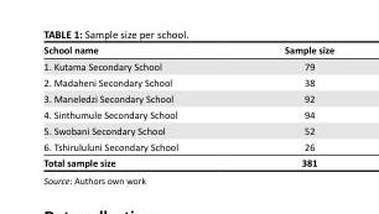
<table><thead><tr><td>School name</td><td>Sample size</td></tr></thead><tbody><tr><td>1. Kutama Secondary School</td><td>79</td></tr><tr><td>2. Madaheni Secondary School</td><td>38</td></tr><tr><td>3. Maneledzi Secondary School</td><td>92</td></tr><tr><td>4. Sinthumule Secondary School</td><td>94</td></tr><tr><td>5. Swobani Secondary School</td><td>52</td></tr><tr><td>6. Tshirululuni Secondary School</td><td>26</td></tr><tr><td>Total sample size</td><td>381</td></tr></tbody></table>